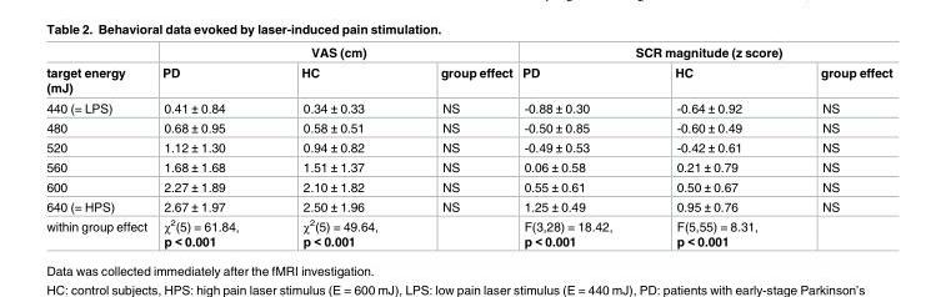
<table><thead><tr><td rowspan="2">target energy (mJ)</td><td colspan="3">VAS (cm)</td><td colspan="3">SCR magnitude (z score)</td></tr><tr><td>PD</td><td>HC</td><td>group effect</td><td>PD</td><td>HC</td><td>group effect</td></tr></thead><tbody><tr><td>440 (= LPS)</td><td>0.41 ± 0.84</td><td>0.34 ± 0.33</td><td>NS</td><td>-0.88 ± 0.30</td><td>-0.64 ± 0.92</td><td>NS</td></tr><tr><td>480</td><td>0.68 ± 0.95</td><td>0.58 ± 0.51</td><td>NS</td><td>-0.50 ± 0.85</td><td>-0.60 ± 0.49</td><td>NS</td></tr><tr><td>520</td><td>1.12 ± 1.30</td><td>0.94 ± 0.82</td><td>NS</td><td>-0.49 ± 0.53</td><td>-0.42 ± 0.61</td><td>NS</td></tr><tr><td>560</td><td>1.68 ± 1.68</td><td>1.51 ± 1.37</td><td>NS</td><td>0.06 ± 0.58</td><td>0.21 ± 0.79</td><td>NS</td></tr><tr><td>600</td><td>2.27 ± 1.89</td><td>2.10 ± 1.82</td><td>NS</td><td>0.55 ± 0.61</td><td>0.50 ± 0.67</td><td>NS</td></tr><tr><td>640 (= HPS)</td><td>2.67 ± 1.97</td><td>2.50 ± 1.96</td><td>NS</td><td>1.25 ± 0.49</td><td>0.95 ± 0.76</td><td>NS</td></tr><tr><td>within group effect</td><td>χ<sup>2</sup>(5) = 61.84, p &lt; 0.001</td><td>χ<sup>2</sup>(5) = 49.64, p &lt; 0.001</td><td></td><td>F(3,28) = 18.42, p &lt; 0.001</td><td>F(5,55) = 8.31, p &lt; 0.001</td><td></td></tr></tbody></table>